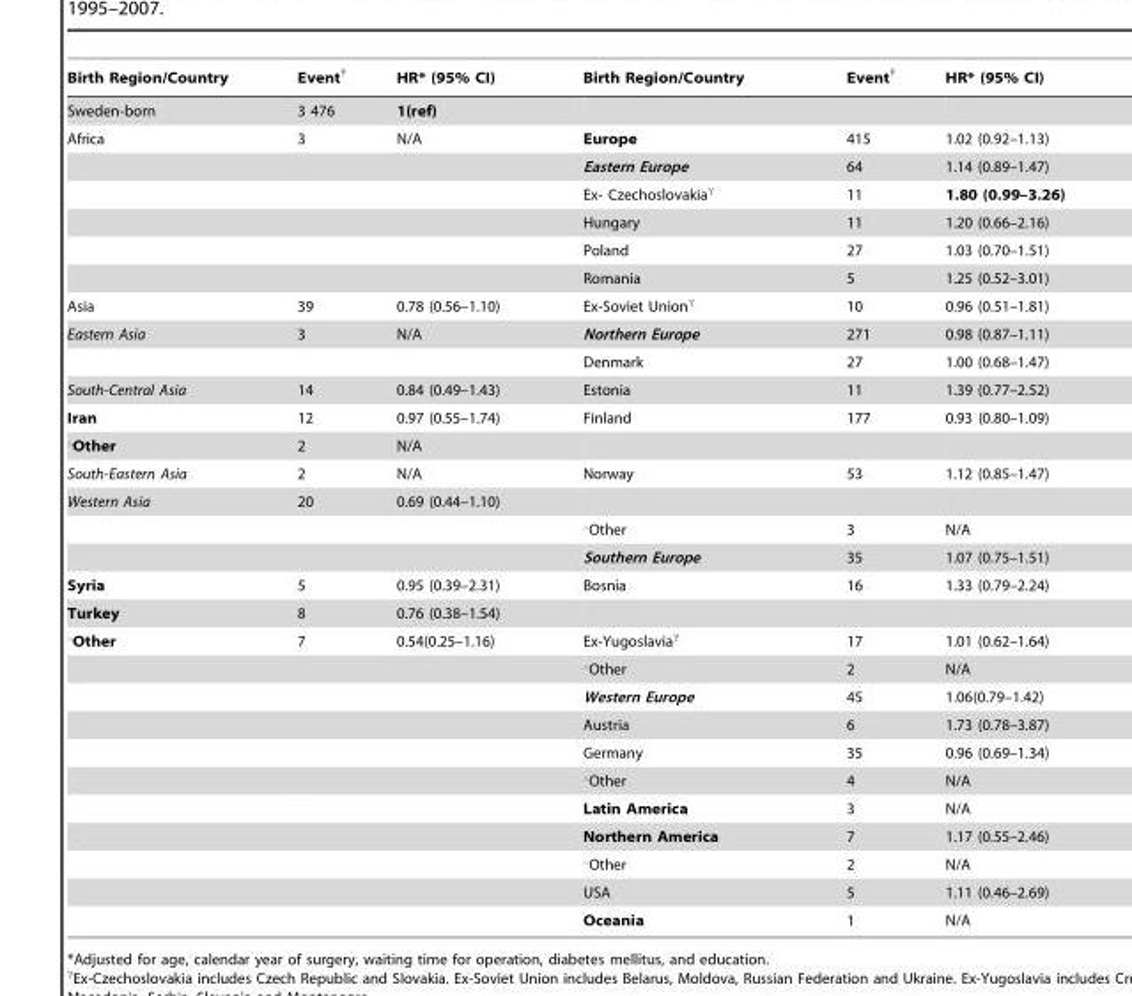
<table><thead><tr><td>Birth Region/Country</td><td>Event†</td><td>HR* (95% CI)</td><td>Birth Region/Country</td><td>Event†</td><td>HR* (95% CI)</td></tr></thead><tbody><tr><td>Sweden-born</td><td>3 476</td><td>1(ref)</td><td></td><td></td><td></td></tr><tr><td rowspan="6">Africa</td><td>3</td><td>N/A</td><td>Europe</td><td>415</td><td>1.02 (0.92–1.13)</td></tr><tr><td></td><td></td><td>Eastern Europe</td><td>64</td><td>1.14 (0.89–1.47)</td></tr><tr><td></td><td></td><td>Ex- Czechoslovakiaγ</td><td>11</td><td>1.80 (0.99–3.26)</td></tr><tr><td></td><td></td><td>Hungary</td><td>11</td><td>1.20 (0.66–2.16)</td></tr><tr><td></td><td></td><td>Poland</td><td>27</td><td>1.03 (0.70–1.51)</td></tr><tr><td></td><td></td><td>Romania</td><td>5</td><td>1.25 (0.52–3.01)</td></tr><tr><td>Asia</td><td>39</td><td>0.78 (0.56–1.10)</td><td>Ex-Soviet Unionγ</td><td>10</td><td>0.96 (0.51–1.81)</td></tr><tr><td rowspan="2">Eastern Asia</td><td>3</td><td>N/A</td><td>Northern Europe</td><td>271</td><td>0.98 (0.87–1.11)</td></tr><tr><td></td><td></td><td>Denmark</td><td>27</td><td>1.00 (0.68–1.47)</td></tr><tr><td>South-Central Asia</td><td>14</td><td>0.84 (0.49–1.43)</td><td>Estonia</td><td>11</td><td>1.39 (0.77–2.52)</td></tr><tr><td>Iran</td><td>12</td><td>0.97 (0.55–1.74)</td><td>Finland</td><td>177</td><td>0.93 (0.80–1.09)</td></tr><tr><td>‘Other</td><td>2</td><td>N/A</td><td></td><td></td><td></td></tr><tr><td>South-Eastern Asia</td><td>2</td><td>N/A</td><td>Norway</td><td>53</td><td>1.12 (0.85–1.47)</td></tr><tr><td rowspan="3">Western Asia</td><td>20</td><td>0.69 (0.44–1.10)</td><td></td><td></td><td></td></tr><tr><td></td><td></td><td>‘Other</td><td>3</td><td>N/A</td></tr><tr><td></td><td></td><td>Southern Europe</td><td>35</td><td>1.07 (0.75–1.51)</td></tr><tr><td>Syria</td><td>5</td><td>0.95 (0.39–2.31)</td><td>Bosnia</td><td>16</td><td>1.33 (0.79–2.24)</td></tr><tr><td>Turkey</td><td>8</td><td>0.76 (0.38–1.54)</td><td></td><td></td><td></td></tr><tr><td rowspan="11">‘Other</td><td>7</td><td>0.54(0.25–1.16)</td><td>Ex-Yugoslaviaγ</td><td>17</td><td>1.01 (0.62–1.64)</td></tr><tr><td></td><td></td><td>‘Other</td><td>2</td><td>N/A</td></tr><tr><td></td><td></td><td>Western Europe</td><td>45</td><td>1.06(0.79–1.42)</td></tr><tr><td></td><td></td><td>Austria</td><td>6</td><td>1.73 (0.78–3.87)</td></tr><tr><td></td><td></td><td>Germany</td><td>35</td><td>0.96 (0.69–1.34)</td></tr><tr><td></td><td></td><td>‘Other</td><td>4</td><td>N/A</td></tr><tr><td></td><td></td><td>Latin America</td><td>3</td><td>N/A</td></tr><tr><td></td><td></td><td>Northern America</td><td>7</td><td>1.17 (0.55–2.46)</td></tr><tr><td></td><td></td><td>‘Other</td><td>2</td><td>N/A</td></tr><tr><td></td><td></td><td>USA</td><td>5</td><td>1.11 (0.46–2.69)</td></tr><tr><td></td><td></td><td>Oceania</td><td>1</td><td>N/A</td></tr></tbody></table>